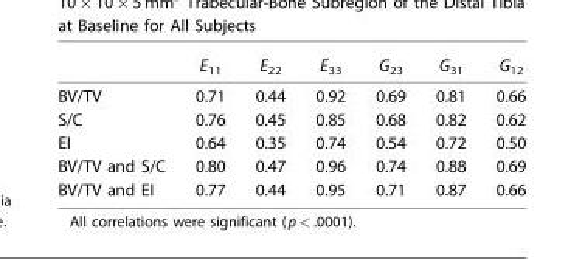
<table><thead><tr><td></td><td>E<sub>11</sub></td><td>E<sub>22</sub></td><td>E<sub>33</sub></td><td>G<sub>23</sub></td><td>G<sub>31</sub></td><td>G<sub>12</sub></td></tr></thead><tbody><tr><td>BV/TV</td><td>0.71</td><td>0.44</td><td>0.92</td><td>0.69</td><td>0.81</td><td>0.66</td></tr><tr><td>S/C</td><td>0.76</td><td>0.45</td><td>0.85</td><td>0.68</td><td>0.82</td><td>0.62</td></tr><tr><td>EI</td><td>0.64</td><td>0.35</td><td>0.74</td><td>0.54</td><td>0.72</td><td>0.50</td></tr><tr><td>BV/TV and S/C</td><td>0.80</td><td>0.47</td><td>0.96</td><td>0.74</td><td>0.88</td><td>0.69</td></tr><tr><td>BV/TV and EI</td><td>0.77</td><td>0.44</td><td>0.95</td><td>0.71</td><td>0.87</td><td>0.66</td></tr></tbody></table>